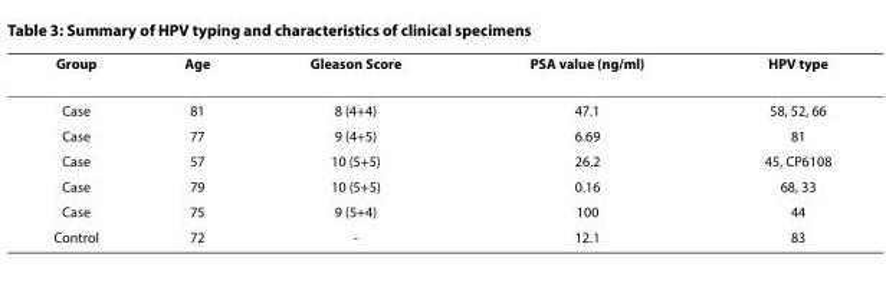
<table><thead><tr><td>Group</td><td>Age</td><td>Gleason Score</td><td>PSA value (ng/ml)</td><td>HPV type</td></tr></thead><tbody><tr><td>Case</td><td>81</td><td>8 (4+4)</td><td>47.1</td><td>58, 52, 66</td></tr><tr><td>Case</td><td>77</td><td>9 (4+5)</td><td>6.69</td><td>81</td></tr><tr><td>Case</td><td>57</td><td>10 (5+5)</td><td>26.2</td><td>45, CP6108</td></tr><tr><td>Case</td><td>79</td><td>10 (5+5)</td><td>0.16</td><td>68, 33</td></tr><tr><td>Case</td><td>75</td><td>9 (5+4)</td><td>100</td><td>44</td></tr><tr><td>Control</td><td>72</td><td>-</td><td>12.1</td><td>83</td></tr></tbody></table>